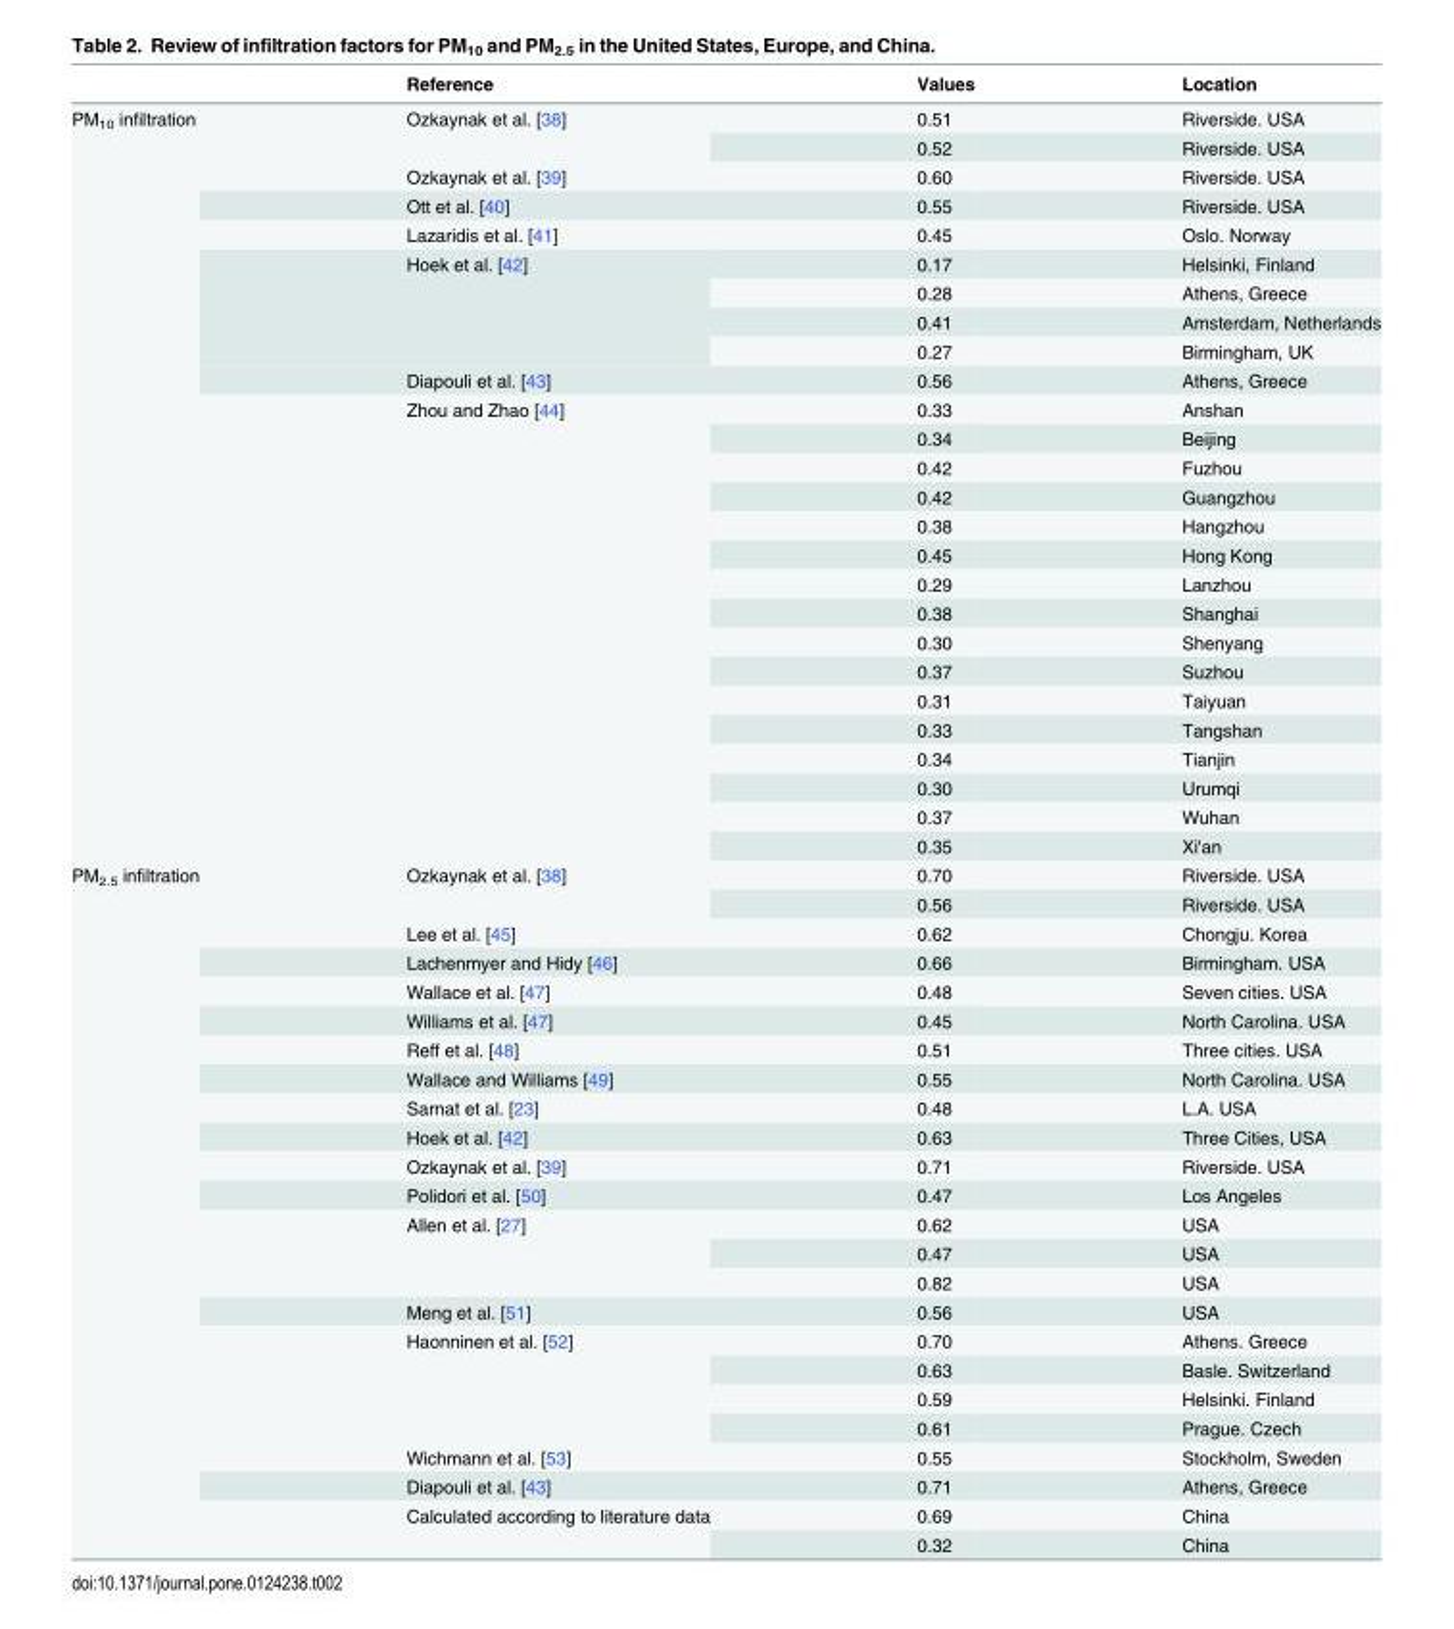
<table><thead><tr><td></td><td>Reference</td><td>Values</td><td>Location</td></tr></thead><tbody><tr><td rowspan="26">PM<sub>10</sub> infiltration</td><td rowspan="2">Ozkaynak et al. [38]</td><td>0.51</td><td>Riverside. USA</td></tr><tr><td>0.52</td><td>Riverside. USA</td></tr><tr><td>Ozkaynak et al. [39]</td><td>0.60</td><td>Riverside. USA</td></tr><tr><td>Ott et al. [40]</td><td>0.55</td><td>Riverside. USA</td></tr><tr><td>Lazaridis et al. [41]</td><td>0.45</td><td>Oslo. Norway</td></tr><tr><td rowspan="4">Hoek et al. [42]</td><td>0.17</td><td>Helsinki, Finland</td></tr><tr><td>0.28</td><td>Athens, Greece</td></tr><tr><td>0.41</td><td>Amsterdam, Netherlands</td></tr><tr><td>0.27</td><td>Birmingham, UK</td></tr><tr><td>Diapouli et al. [43]</td><td>0.56</td><td>Athens, Greece</td></tr><tr><td rowspan="16">Zhou and Zhao [44]</td><td>0.33</td><td>Anshan</td></tr><tr><td>0.34</td><td>Beijing</td></tr><tr><td>0.42</td><td>Fuzhou</td></tr><tr><td>0.42</td><td>Guangzhou</td></tr><tr><td>0.38</td><td>Hangzhou</td></tr><tr><td>0.45</td><td>Hong Kong</td></tr><tr><td>0.29</td><td>Lanzhou</td></tr><tr><td>0.38</td><td>Shanghai</td></tr><tr><td>0.30</td><td>Shenyang</td></tr><tr><td>0.37</td><td>Suzhou</td></tr><tr><td>0.31</td><td>Taiyuan</td></tr><tr><td>0.33</td><td>Tangshan</td></tr><tr><td>0.34</td><td>Tianjin</td></tr><tr><td>0.30</td><td>Urumqi</td></tr><tr><td>0.37</td><td>Wuhan</td></tr><tr><td>0.35</td><td>Xi&#x27;an</td></tr><tr><td rowspan="24">PM<sub>2.5</sub> infiltration</td><td rowspan="2">Ozkaynak et al. [38]</td><td>0.70</td><td>Riverside. USA</td></tr><tr><td>0.56</td><td>Riverside. USA</td></tr><tr><td>Lee et al. [45]</td><td>0.62</td><td>Chongju. Korea</td></tr><tr><td>Lachenmyer and Hidy [46]</td><td>0.66</td><td>Birmingham. USA</td></tr><tr><td>Wallace et al. [47]</td><td>0.48</td><td>Seven cities. USA</td></tr><tr><td>Williams et al. [47]</td><td>0.45</td><td>North Carolina. USA</td></tr><tr><td>Reff et al. [48]</td><td>0.51</td><td>Three cities. USA</td></tr><tr><td>Wallace and Williams [49]</td><td>0.55</td><td>North Carolina. USA</td></tr><tr><td>Sarnat et al. [23]</td><td>0.48</td><td>L.A. USA</td></tr><tr><td>Hoek et al. [42]</td><td>0.63</td><td>Three Cities, USA</td></tr><tr><td>Ozkaynak et al. [39]</td><td>0.71</td><td>Riverside. USA</td></tr><tr><td>Polidori et al. [50]</td><td>0.47</td><td>Los Angeles</td></tr><tr><td rowspan="3">Allen et al. [27]</td><td>0.62</td><td>USA</td></tr><tr><td>0.47</td><td>USA</td></tr><tr><td>0.82</td><td>USA</td></tr><tr><td>Meng et al. [51]</td><td>0.56</td><td>USA</td></tr><tr><td rowspan="4">Haonninen et al. [52]</td><td>0.70</td><td>Athens. Greece</td></tr><tr><td>0.63</td><td>Basle. Switzerland</td></tr><tr><td>0.59</td><td>Helsinki. Finland</td></tr><tr><td>0.61</td><td>Prague. Czech</td></tr><tr><td>Wichmann et al. [53]</td><td>0.55</td><td>Stockholm, Sweden</td></tr><tr><td>Diapouli et al. [43]</td><td>0.71</td><td>Athens, Greece</td></tr><tr><td rowspan="2">Calculated according to literature data</td><td>0.69</td><td>China</td></tr><tr><td>0.32</td><td>China</td></tr></tbody></table>